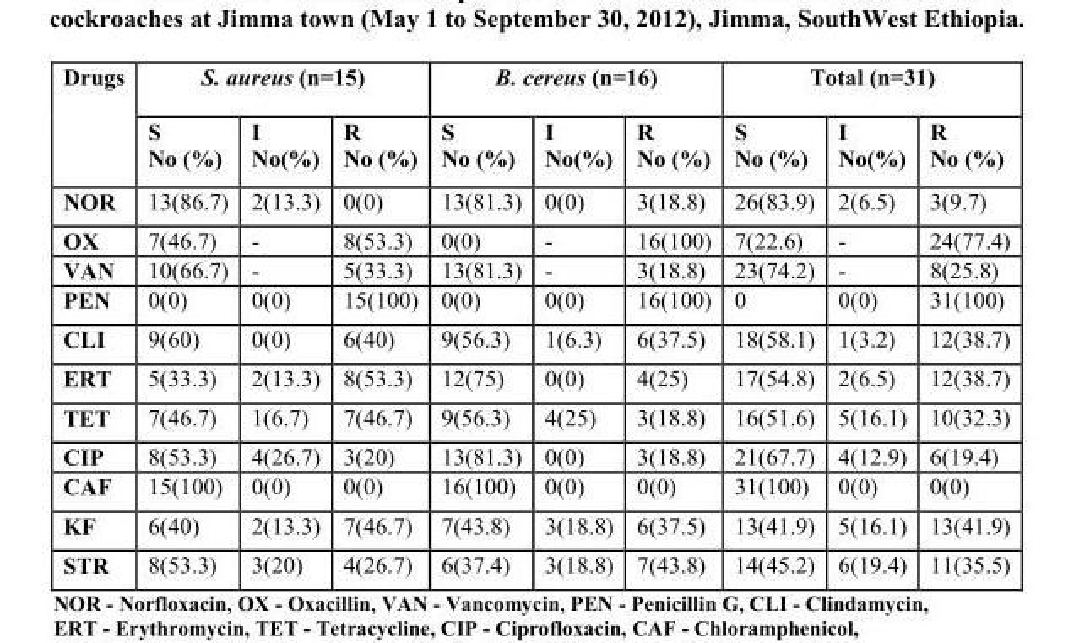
<table><thead><tr><td rowspan="2">Drugs</td><td colspan="3">S. aureus (n=15)</td><td colspan="3">B. cereus (n=16)</td><td colspan="3">Total (n=31)</td></tr><tr><td>S No (%)</td><td>I No(%)</td><td>R No (%)</td><td>S No (%)</td><td>I No(%)</td><td>R No (%)</td><td>S No (%)</td><td>I No(%)</td><td>R No (%)</td></tr></thead><tbody><tr><td>NOR</td><td>13(86.7)</td><td>2(13.3)</td><td>0(0)</td><td>13(81.3)</td><td>0(0)</td><td>3(18.8)</td><td>26(83.9)</td><td>2(6.5)</td><td>3(9.7)</td></tr><tr><td>OX</td><td>7(46.7)</td><td>-</td><td>8(53.3)</td><td>0(0)</td><td>-</td><td>16(100)</td><td>7(22.6)</td><td>-</td><td>24(77.4)</td></tr><tr><td>VAN</td><td>10(66.7)</td><td>-</td><td>5(33.3)</td><td>13(81.3)</td><td>-</td><td>3(18.8)</td><td>23(74.2)</td><td>-</td><td>8(25.8)</td></tr><tr><td>PEN</td><td>0(0)</td><td>0(0)</td><td>15(100)</td><td>0(0)</td><td>0(0)</td><td>16(100)</td><td>0</td><td>0(0)</td><td>31(100)</td></tr><tr><td>CLI</td><td>9(60)</td><td>0(0)</td><td>6(40)</td><td>9(56.3)</td><td>1(6.3)</td><td>6(37.5)</td><td>18(58.1)</td><td>1(3.2)</td><td>12(38.7)</td></tr><tr><td>ERT</td><td>5(33.3)</td><td>2(13.3)</td><td>8(53.3)</td><td>12(75)</td><td>0(0)</td><td>4(25)</td><td>17(54.8)</td><td>2(6.5)</td><td>12(38.7)</td></tr><tr><td>TET</td><td>7(46.7)</td><td>1(6.7)</td><td>7(46.7)</td><td>9(56.3)</td><td>4(25)</td><td>3(18.8)</td><td>16(51.6)</td><td>5(16.1)</td><td>10(32.3)</td></tr><tr><td>CIP</td><td>8(53.3)</td><td>4(26.7)</td><td>3(20)</td><td>13(81.3)</td><td>0(0)</td><td>3(18.8)</td><td>21(67.7)</td><td>4(12.9)</td><td>6(19.4)</td></tr><tr><td>CAF</td><td>15(100)</td><td>0(0)</td><td>0(0)</td><td>16(100)</td><td>0(0)</td><td>0(0)</td><td>31(100)</td><td>0(0)</td><td>0(0)</td></tr><tr><td>KF</td><td>6(40)</td><td>2(13.3)</td><td>7(46.7)</td><td>7(43.8)</td><td>3(18.8)</td><td>6(37.5)</td><td>13(41.9)</td><td>5(16.1)</td><td>13(41.9)</td></tr><tr><td>STR</td><td>8(53.3)</td><td>3(20)</td><td>4(26.7)</td><td>6(37.4)</td><td>3(18.8)</td><td>7(43.8)</td><td>14(45.2)</td><td>6(19.4)</td><td>11(35.5)</td></tr></tbody></table>